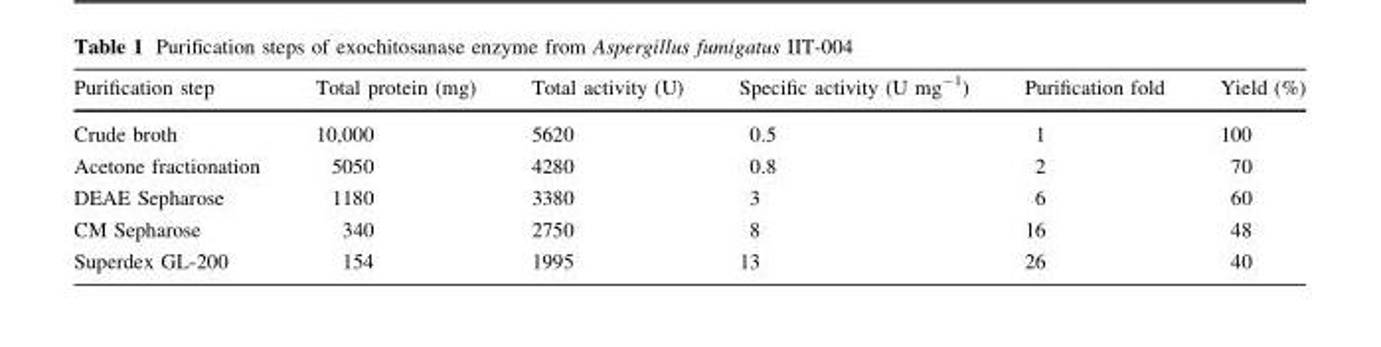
<table><thead><tr><td>Purification step</td><td>Total protein (mg)</td><td>Total activity (U)</td><td>Specific activity (U mg<sup>-1</sup>)</td><td>Purification fold</td><td>Yield (%)</td></tr></thead><tbody><tr><td>Crude broth</td><td>10,000</td><td>5620</td><td>0.5</td><td>1</td><td>100</td></tr><tr><td>Acetone fractionation</td><td>5050</td><td>4280</td><td>0.8</td><td>2</td><td>70</td></tr><tr><td>DEAE Sepharose</td><td>1180</td><td>3380</td><td>3</td><td>6</td><td>60</td></tr><tr><td>CM Sepharose</td><td>340</td><td>2750</td><td>8</td><td>16</td><td>48</td></tr><tr><td>Superdex GL-200</td><td>154</td><td>1995</td><td>13</td><td>26</td><td>40</td></tr></tbody></table>